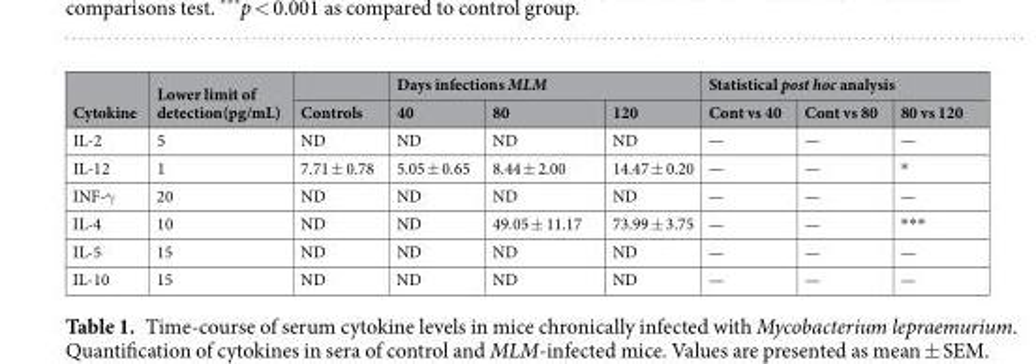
<table><thead><tr><td rowspan="2">Cytokine</td><td rowspan="2">Lower limit of detection(pg/mL)</td><td rowspan="2">Controls</td><td colspan="3">Days infections MLM</td><td colspan="3">Statistical post hoc analysis</td></tr><tr><td>40</td><td>80</td><td>120</td><td>Cont vs 40</td><td>Cont vs 80</td><td>80 vs 120</td></tr></thead><tbody><tr><td>IL-2</td><td>5</td><td>ND</td><td>ND</td><td>ND</td><td>ND</td><td>—</td><td>—</td><td>—</td></tr><tr><td>IL-12</td><td>1</td><td>7.71 ± 0.78</td><td>5.05 ± 0.65</td><td>8.44 ± 2.00</td><td>14.47 ± 0.20</td><td>—</td><td>—</td><td>*</td></tr><tr><td>INF-γ</td><td>20</td><td>ND</td><td>ND</td><td>ND</td><td>ND</td><td>—</td><td>—</td><td>—</td></tr><tr><td>IL-4</td><td>10</td><td>ND</td><td>ND</td><td>49.05 ± 11.17</td><td>73.99 ± 3.75</td><td>—</td><td>—</td><td>***</td></tr><tr><td>IL-5</td><td>15</td><td>ND</td><td>ND</td><td>ND</td><td>ND</td><td>—</td><td>—</td><td>—</td></tr><tr><td>IL-10</td><td>15</td><td>ND</td><td>ND</td><td>ND</td><td>ND</td><td>—</td><td>—</td><td>—</td></tr></tbody></table>